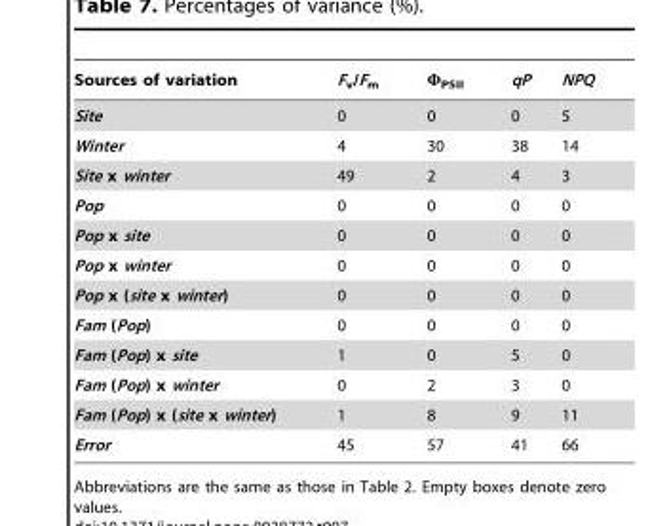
<table><thead><tr><td>Sources of variation</td><td>F<sub>v</sub>/F<sub>m</sub></td><td>Φ<sub>PSII</sub></td><td>qP</td><td>NPQ</td></tr></thead><tbody><tr><td>Site</td><td>0</td><td>0</td><td>0</td><td>5</td></tr><tr><td>Winter</td><td>4</td><td>30</td><td>38</td><td>14</td></tr><tr><td>Site x winter</td><td>49</td><td>2</td><td>4</td><td>3</td></tr><tr><td>Pop</td><td>0</td><td>0</td><td>0</td><td>0</td></tr><tr><td>Pop x site</td><td>0</td><td>0</td><td>0</td><td>0</td></tr><tr><td>Pop x winter</td><td>0</td><td>0</td><td>0</td><td>0</td></tr><tr><td>Pop x (site x winter)</td><td>0</td><td>0</td><td>0</td><td>0</td></tr><tr><td>Fam (Pop)</td><td>0</td><td>0</td><td>0</td><td>0</td></tr><tr><td>Fam (Pop) x site</td><td>1</td><td>0</td><td>5</td><td>0</td></tr><tr><td>Fam (Pop) x winter</td><td>0</td><td>2</td><td>3</td><td>0</td></tr><tr><td>Fam (Pop) x (site x winter)</td><td>1</td><td>8</td><td>9</td><td>11</td></tr><tr><td>Error</td><td>45</td><td>57</td><td>41</td><td>66</td></tr></tbody></table>